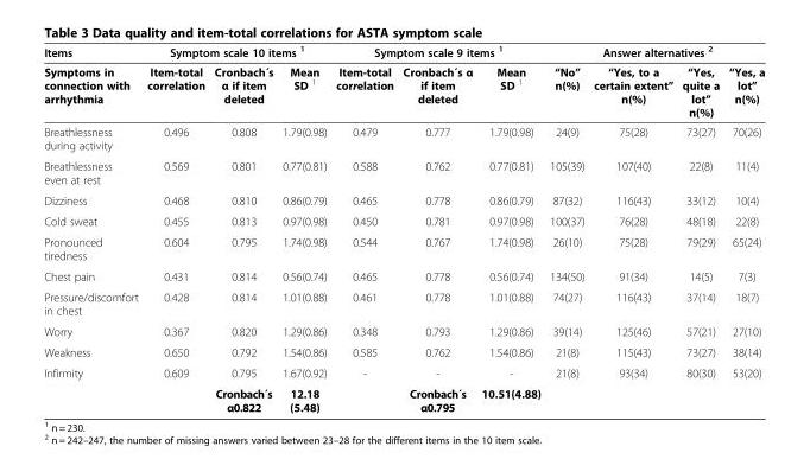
<table><thead><tr><td rowspan="2">Items Symptoms in connection with arrhythmia</td><td colspan="3">Symptom scale 10 items <sup>1</sup></td><td colspan="3">Symptom scale 9 items <sup>1</sup></td><td colspan="4">Answer alternatives <sup>2</sup></td></tr><tr><td>Item-total correlation</td><td>Cronbach´s α if item deleted</td><td>Mean SD <sup>1</sup></td><td>Item-total correlation</td><td>Cronbach´s α if item deleted</td><td>Mean SD <sup>1</sup></td><td>“No” n(%)</td><td>“Yes, to a certain extent” n(%)</td><td>“Yes, quite a lot” n(%)</td><td>“Yes, a lot” n(%)</td></tr></thead><tbody><tr><td>Breathlessness during activity</td><td>0.496</td><td>0.808</td><td>1.79(0.98)</td><td>0.479</td><td>0.777</td><td>1.79(0.98)</td><td>24(9)</td><td>75(28)</td><td>73(27)</td><td>70(26)</td></tr><tr><td>Breathlessness even at rest</td><td>0.569</td><td>0.801</td><td>0.77(0.81)</td><td>0.588</td><td>0.762</td><td>0.77(0.81)</td><td>105(39)</td><td>107(40)</td><td>22(8)</td><td>11(4)</td></tr><tr><td>Dizziness</td><td>0.468</td><td>0.810</td><td>0.86(0.79)</td><td>0.465</td><td>0.778</td><td>0.86(0.79)</td><td>87(32)</td><td>116(43)</td><td>33(12)</td><td>10(4)</td></tr><tr><td>Cold sweat</td><td>0.455</td><td>0.813</td><td>0.97(0.98)</td><td>0.450</td><td>0.781</td><td>0.97(0.98)</td><td>100(37)</td><td>76(28)</td><td>48(18)</td><td>22(8)</td></tr><tr><td>Pronounced tiredness</td><td>0.604</td><td>0.795</td><td>1.74(0.98)</td><td>0.544</td><td>0.767</td><td>1.74(0.98)</td><td>26(10)</td><td>75(28)</td><td>79(29)</td><td>65(24)</td></tr><tr><td>Chest pain</td><td>0.431</td><td>0.814</td><td>0.56(0.74)</td><td>0.465</td><td>0.778</td><td>0.56(0.74)</td><td>134(50)</td><td>91(34)</td><td>14(5)</td><td>7(3)</td></tr><tr><td>Pressure/discomfort in chest</td><td>0.428</td><td>0.814</td><td>1.01(0.88)</td><td>0.461</td><td>0.778</td><td>1.01(0.88)</td><td>74(27)</td><td>116(43)</td><td>37(14)</td><td>18(7)</td></tr><tr><td>Worry</td><td>0.367</td><td>0.820</td><td>1.29(0.86)</td><td>0.348</td><td>0.793</td><td>1.29(0.86)</td><td>39(14)</td><td>125(46)</td><td>57(21)</td><td>27(10)</td></tr><tr><td>Weakness</td><td>0.650</td><td>0.792</td><td>1.54(0.86)</td><td>0.585</td><td>0.762</td><td>1.54(0.86)</td><td>21(8)</td><td>115(43)</td><td>73(27)</td><td>38(14)</td></tr><tr><td rowspan="2">Infirmity</td><td>0.609</td><td>0.795</td><td>1.67(0.92)</td><td>-</td><td>-</td><td>-</td><td>21(8)</td><td>93(34)</td><td>80(30)</td><td>53(20)</td></tr><tr><td></td><td>Cronbach´s α0.822</td><td>12.18 (5.48)</td><td></td><td>Cronbach´s α0.795</td><td>10.51(4.88)</td><td></td><td></td><td></td><td></td></tr></tbody></table>